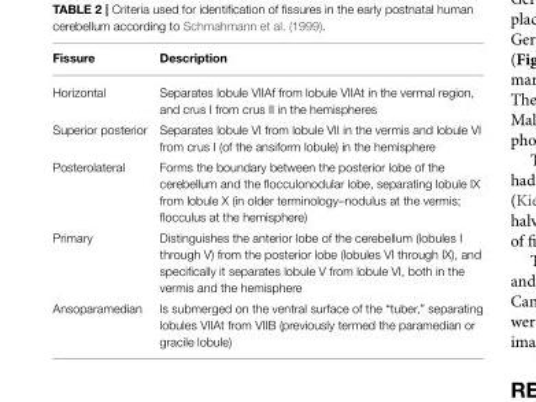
<table><thead><tr><td>Fissure</td><td>Description</td></tr></thead><tbody><tr><td>Horizontal</td><td>Separates lobule VIIAf from lobule VIIAt in the vermal region, and crus I from crus II in the hemispheres</td></tr><tr><td>Superior posterior</td><td>Separates lobule VI from lobule VII in the vermis and lobule VI from crus I (of the ansiform lobule) in the hemisphere</td></tr><tr><td>Posterolateral</td><td>Forms the boundary between the posterior lobe of the cerebellum and the flocculonodular lobe, separating lobule IX from lobule X (in older terminology–nodulus at the vermis; flocculus at the hemisphere)</td></tr><tr><td>Primary</td><td>Distinguishes the anterior lobe of the cerebellum (lobules I through V) from the posterior lobe (lobules VI through IX), and specifically it separates lobule V from lobule VI, both in the vermis and the hemisphere</td></tr><tr><td>Ansoparamedian</td><td>Is submerged on the ventral surface of the “tuber,” separating lobules VIIAt from VIIB (previously termed the paramedian or gracile lobule)</td></tr></tbody></table>